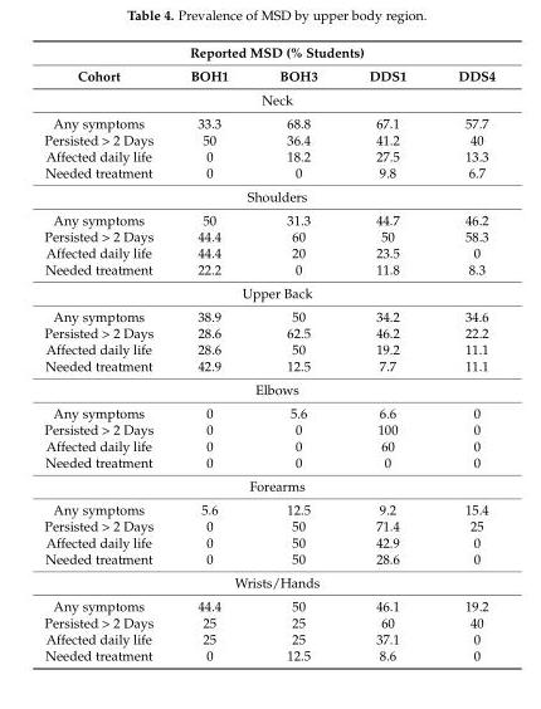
<table><thead><tr><td colspan="5">Reported MSD (% Students)</td></tr><tr><td>Cohort</td><td>BOH1</td><td>BOH3</td><td>DDS1</td><td>DDS4</td></tr></thead><tbody><tr><td colspan="5">Neck</td></tr><tr><td>Any symptoms</td><td>33.3</td><td>68.8</td><td>67.1</td><td>57.7</td></tr><tr><td>Persisted &gt; 2 Days</td><td>50</td><td>36.4</td><td>41.2</td><td>40</td></tr><tr><td>Affected daily life</td><td>0</td><td>18.2</td><td>27.5</td><td>13.3</td></tr><tr><td>Needed treatment</td><td>0</td><td>0</td><td>9.8</td><td>6.7</td></tr><tr><td colspan="5">Shoulders</td></tr><tr><td>Any symptoms</td><td>50</td><td>31.3</td><td>44.7</td><td>46.2</td></tr><tr><td>Persisted &gt; 2 Days</td><td>44.4</td><td>60</td><td>50</td><td>58.3</td></tr><tr><td>Affected daily life</td><td>44.4</td><td>20</td><td>23.5</td><td>0</td></tr><tr><td>Needed treatment</td><td>22.2</td><td>0</td><td>11.8</td><td>8.3</td></tr><tr><td colspan="5">Upper Back</td></tr><tr><td>Any symptoms</td><td>38.9</td><td>50</td><td>34.2</td><td>34.6</td></tr><tr><td>Persisted &gt; 2 Days</td><td>28.6</td><td>62.5</td><td>46.2</td><td>22.2</td></tr><tr><td>Affected daily life</td><td>28.6</td><td>50</td><td>19.2</td><td>11.1</td></tr><tr><td>Needed treatment</td><td>42.9</td><td>12.5</td><td>7.7</td><td>11.1</td></tr><tr><td colspan="5">Elbows</td></tr><tr><td>Any symptoms</td><td>0</td><td>5.6</td><td>6.6</td><td>0</td></tr><tr><td>Persisted &gt; 2 Days</td><td>0</td><td>0</td><td>100</td><td>0</td></tr><tr><td>Affected daily life</td><td>0</td><td>0</td><td>60</td><td>0</td></tr><tr><td>Needed treatment</td><td>0</td><td>0</td><td>0</td><td>0</td></tr><tr><td colspan="5">Forearms</td></tr><tr><td>Any symptoms</td><td>5.6</td><td>12.5</td><td>9.2</td><td>15.4</td></tr><tr><td>Persisted &gt; 2 Days</td><td>0</td><td>50</td><td>71.4</td><td>25</td></tr><tr><td>Affected daily life</td><td>0</td><td>50</td><td>42.9</td><td>0</td></tr><tr><td>Needed treatment</td><td>0</td><td>50</td><td>28.6</td><td>0</td></tr><tr><td colspan="5">Wrists/Hands</td></tr><tr><td>Any symptoms</td><td>44.4</td><td>50</td><td>46.1</td><td>19.2</td></tr><tr><td>Persisted &gt; 2 Days</td><td>25</td><td>25</td><td>60</td><td>40</td></tr><tr><td>Affected daily life</td><td>25</td><td>25</td><td>37.1</td><td>0</td></tr><tr><td>Needed treatment</td><td>0</td><td>12.5</td><td>8.6</td><td>0</td></tr></tbody></table>